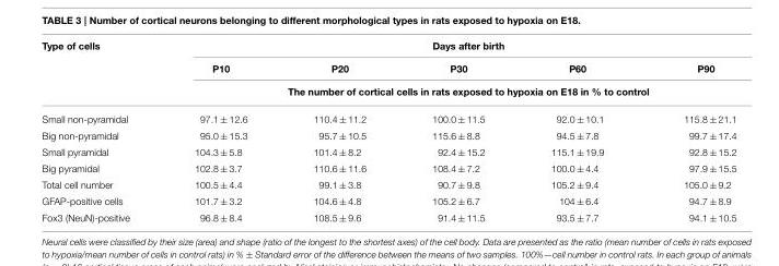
<table><thead><tr><td rowspan="3">Type of cells</td><td colspan="5">Days after birth</td></tr><tr><td>P10</td><td>P20</td><td>P30</td><td>P60</td><td>P90</td></tr><tr><td colspan="5">The number of cortical cells in rats exposed to hypoxia on E18 in % to control</td></tr></thead><tbody><tr><td>Small non-pyramidal</td><td>97.1 ± 12.6</td><td>110.4 ± 11.2</td><td>100.0 ± 11.5</td><td>92.0 ± 10.1</td><td>115.8 ± 21.1</td></tr><tr><td>Big non-pyramidal</td><td>95.0 ± 15.3</td><td>95.7 ± 10.5</td><td>115.6 ± 8.8</td><td>94.5 ± 7.8</td><td>99.7 ± 17.4</td></tr><tr><td>Small pyramidal</td><td>104.3 ± 5.8</td><td>101.4 ± 8.2</td><td>92.4 ± 15.2</td><td>115.1 ± 19.9</td><td>92.8 ± 15.2</td></tr><tr><td>Big pyramidal</td><td>102.8 ± 3.7</td><td>110.6 ± 11.6</td><td>108.4 ± 7.2</td><td>100.0 ± 4.4</td><td>97.9 ± 15.5</td></tr><tr><td>Total cell number</td><td>100.5 ± 4.4</td><td>99.1 ± 3.8</td><td>90.7 ± 9.8</td><td>105.2 ± 9.4</td><td>105.0 ± 9.2</td></tr><tr><td>GFAP-positive cells</td><td>101.7 ± 3.2</td><td>104.6 ± 4.8</td><td>105.2 ± 6.7</td><td>104 ± 6.4</td><td>94.7 ± 8.9</td></tr><tr><td>Fox3 (NeuN)-positive</td><td>96.8 ± 8.4</td><td>108.5 ± 9.6</td><td>91.4 ± 11.5</td><td>93.5 ± 7.7</td><td>94.1 ± 10.5</td></tr></tbody></table>